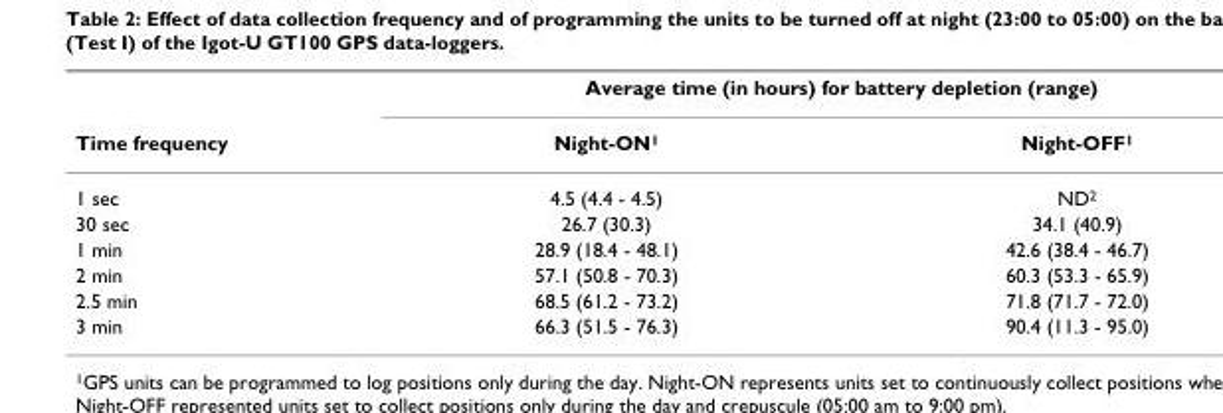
<table><thead><tr><td rowspan="2">Time frequency</td><td colspan="2">Average time (in hours) for battery depletion (range)</td></tr><tr><td>Night-ON<sup>1</sup></td><td>Night-OFF<sup>1</sup></td></tr></thead><tbody><tr><td>1 sec</td><td>4.5 (4.4 - 4.5)</td><td>ND<sup>2</sup></td></tr><tr><td>30 sec</td><td>26.7 (30.3)</td><td>34.1 (40.9)</td></tr><tr><td>1 min</td><td>28.9 (18.4 - 48.1)</td><td>42.6 (38.4 - 46.7)</td></tr><tr><td>2 min</td><td>57.1 (50.8 - 70.3)</td><td>60.3 (53.3 - 65.9)</td></tr><tr><td>2.5 min</td><td>68.5 (61.2 - 73.2)</td><td>71.8 (71.7 - 72.0)</td></tr><tr><td>3 min</td><td>66.3 (51.5 - 76.3)</td><td>90.4 (11.3 - 95.0)</td></tr></tbody></table>